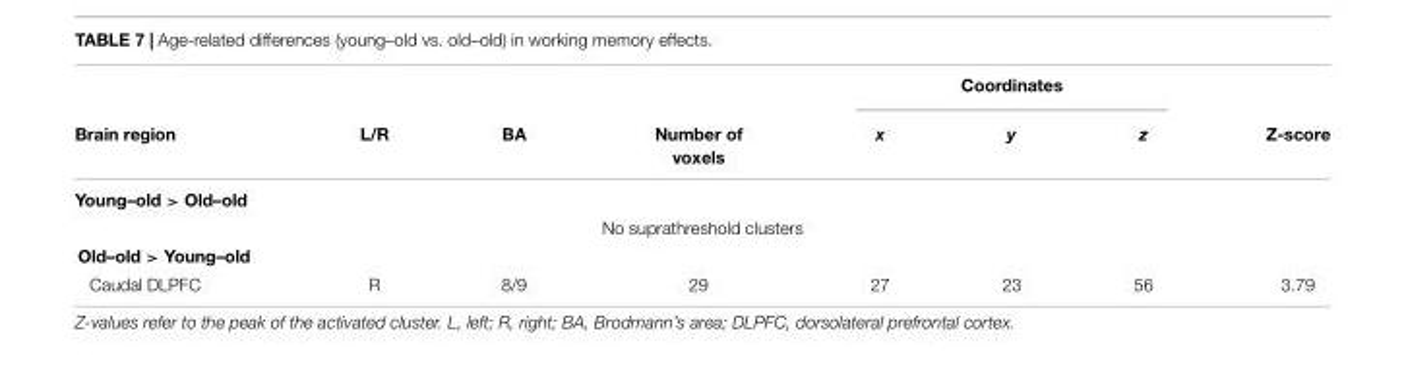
<table><thead><tr><td rowspan="2">Brain region</td><td rowspan="2">L/R</td><td rowspan="2">BA</td><td rowspan="2">Number of voxels</td><td colspan="3">Coordinates</td><td rowspan="2">Z-score</td></tr><tr><td>x</td><td>y</td><td>z</td></tr></thead><tbody><tr><td colspan="8">Young–old &gt; Old–old</td></tr><tr><td colspan="8">No suprathreshold clusters</td></tr><tr><td colspan="8">Old–old &gt; Young–old</td></tr><tr><td>Caudal DLPFC</td><td>R</td><td>8/9</td><td>29</td><td>27</td><td>23</td><td>56</td><td>3.79</td></tr></tbody></table>